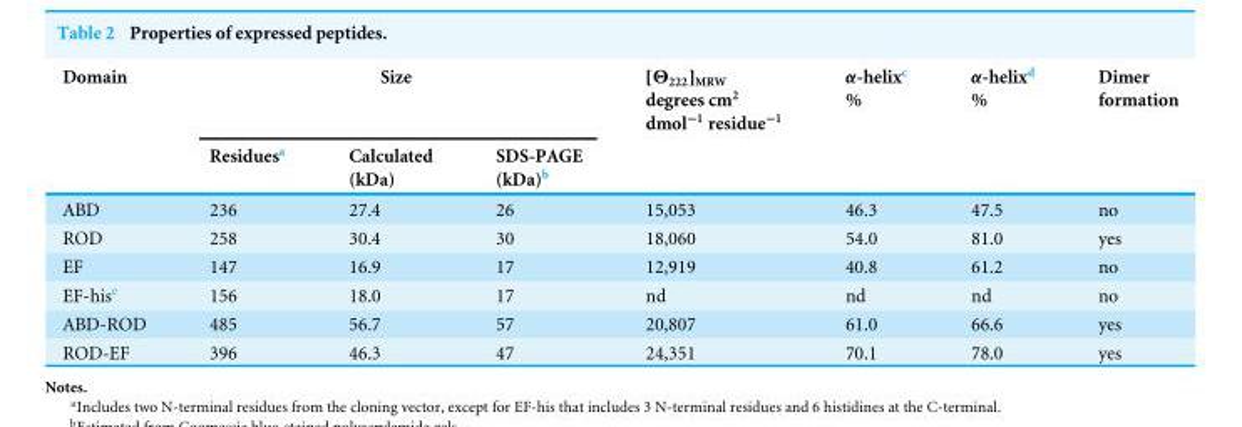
<table><thead><tr><td rowspan="2">Domain</td><td colspan="3">Size</td><td rowspan="2">[Θ<sub>222</sub>]<sub>MRW</sub> degrees cm<sup>2</sup> dmol<sup>−1</sup> residue<sup>−1</sup></td><td rowspan="2">α-helix<sup>c</sup> %</td><td rowspan="2">α-helix<sup>d</sup> %</td><td rowspan="2">Dimer formation</td></tr><tr><td>Residues<sup>a</sup></td><td>Calculated (kDa)</td><td>SDS-PAGE (kDa)<sup>b</sup></td></tr></thead><tbody><tr><td>ABD</td><td>236</td><td>27.4</td><td>26</td><td>15,053</td><td>46.3</td><td>47.5</td><td>no</td></tr><tr><td>ROD</td><td>258</td><td>30.4</td><td>30</td><td>18,060</td><td>54.0</td><td>81.0</td><td>yes</td></tr><tr><td>EF</td><td>147</td><td>16.9</td><td>17</td><td>12,919</td><td>40.8</td><td>61.2</td><td>no</td></tr><tr><td>EF-his<sup>e</sup></td><td>156</td><td>18.0</td><td>17</td><td>nd</td><td>nd</td><td>nd</td><td>no</td></tr><tr><td>ABD-ROD</td><td>485</td><td>56.7</td><td>57</td><td>20,807</td><td>61.0</td><td>66.6</td><td>yes</td></tr><tr><td>ROD-EF</td><td>396</td><td>46.3</td><td>47</td><td>24,351</td><td>70.1</td><td>78.0</td><td>yes</td></tr></tbody></table>